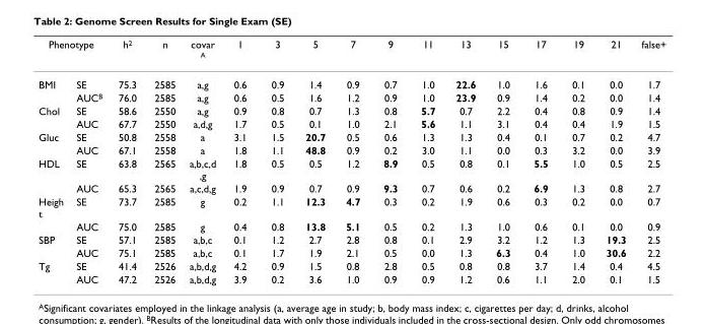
<table><thead><tr><td colspan="2">Phenotype</td><td rowspan="2">h2 75.3</td><td rowspan="2">n 2585</td><td rowspan="2">covar A a,g</td><td rowspan="2">1 0.6</td><td rowspan="2">3 0.9</td><td rowspan="2">5 1.4</td><td rowspan="2">7 0.9</td><td rowspan="2">9 0.7</td><td rowspan="2">11 1.0</td><td rowspan="2">13 22.6</td><td rowspan="2">15 1.0</td><td rowspan="2">17 1.6</td><td rowspan="2">19 0.1</td><td rowspan="2">21 0.0</td><td rowspan="2">false+ 1.7</td></tr><tr><td>BMI</td><td>SE</td></tr></thead><tbody><tr><td></td><td>AUCB</td><td>76.0</td><td>2585</td><td>a,g</td><td>0.6</td><td>0.5</td><td>1.6</td><td>1.2</td><td>0.9</td><td>1.0</td><td>23.9</td><td>0.9</td><td>1.4</td><td>0.2</td><td>0.0</td><td>1.4</td></tr><tr><td rowspan="2">Chol</td><td>SE</td><td>58.6</td><td>2550</td><td>a,g</td><td>0.9</td><td>0.8</td><td>0.7</td><td>1.3</td><td>0.8</td><td>5.7</td><td>0.7</td><td>2.2</td><td>0.4</td><td>0.8</td><td>0.9</td><td>1.4</td></tr><tr><td>AUC</td><td>67.7</td><td>2550</td><td>a,d,g</td><td>1.7</td><td>0.5</td><td>0.1</td><td>1.0</td><td>2.1</td><td>5.6</td><td>1.1</td><td>3.1</td><td>0.4</td><td>0.4</td><td>1.9</td><td>1.5</td></tr><tr><td rowspan="2">Gluc</td><td>SE</td><td>50.8</td><td>2558</td><td>a</td><td>3.1</td><td>1.5</td><td>20.7</td><td>0.5</td><td>0.6</td><td>1.3</td><td>1.3</td><td>0.4</td><td>0.1</td><td>0.7</td><td>0.2</td><td>4.7</td></tr><tr><td>AUC</td><td>67.1</td><td>2558</td><td>a</td><td>1.8</td><td>1.1</td><td>48.8</td><td>0.9</td><td>0.2</td><td>3.0</td><td>1.1</td><td>0.0</td><td>0.3</td><td>3.2</td><td>0.0</td><td>3.9</td></tr><tr><td rowspan="2">HDL</td><td>SE</td><td>63.8</td><td>2565</td><td>a,b,c,d ,g</td><td>1.8</td><td>0.5</td><td>0.5</td><td>1.2</td><td>8.9</td><td>0.5</td><td>0.8</td><td>0.1</td><td>5.5</td><td>1.0</td><td>0.5</td><td>2.5</td></tr><tr><td>AUC</td><td>65.3</td><td>2565</td><td>a,c,d,g</td><td>1.9</td><td>0.9</td><td>0.7</td><td>0.9</td><td>9.3</td><td>0.7</td><td>0.6</td><td>0.2</td><td>6.9</td><td>1.3</td><td>0.8</td><td>2.7</td></tr><tr><td rowspan="2">Heigh t</td><td>SE</td><td>73.7</td><td>2585</td><td>g</td><td>0.2</td><td>1.1</td><td>12.3</td><td>4.7</td><td>0.3</td><td>0.2</td><td>1.9</td><td>0.6</td><td>0.3</td><td>0.2</td><td>0.0</td><td>0.7</td></tr><tr><td>AUC</td><td>75.0</td><td>2585</td><td>g</td><td>0.4</td><td>0.8</td><td>13.8</td><td>5.1</td><td>0.5</td><td>0.2</td><td>1.3</td><td>1.0</td><td>0.6</td><td>0.1</td><td>0.0</td><td>0.9</td></tr><tr><td rowspan="2">SBP</td><td>SE</td><td>57.1</td><td>2585</td><td>a,b,c</td><td>0.1</td><td>1.2</td><td>2.7</td><td>2.8</td><td>0.8</td><td>0.1</td><td>2.9</td><td>3.2</td><td>1.2</td><td>1.3</td><td>19.3</td><td>2.5</td></tr><tr><td>AUC</td><td>75.1</td><td>2585</td><td>a,b,c</td><td>0.1</td><td>1.7</td><td>1.9</td><td>2.1</td><td>0.5</td><td>0.0</td><td>1.3</td><td>6.3</td><td>0.4</td><td>1.0</td><td>30.6</td><td>2.2</td></tr><tr><td rowspan="2">Tg</td><td>SE</td><td>41.4</td><td>2526</td><td>a,b,d,g</td><td>4.2</td><td>0.9</td><td>1.5</td><td>0.8</td><td>2.8</td><td>0.5</td><td>0.8</td><td>0.8</td><td>3.7</td><td>1.4</td><td>0.4</td><td>4.5</td></tr><tr><td>AUC</td><td>47.2</td><td>2526</td><td>a,b,d,g</td><td>3.9</td><td>0.2</td><td>3.6</td><td>1.0</td><td>0.9</td><td>0.9</td><td>1.2</td><td>0.6</td><td>1.1</td><td>2.0</td><td>0.1</td><td>1.5</td></tr></tbody></table>